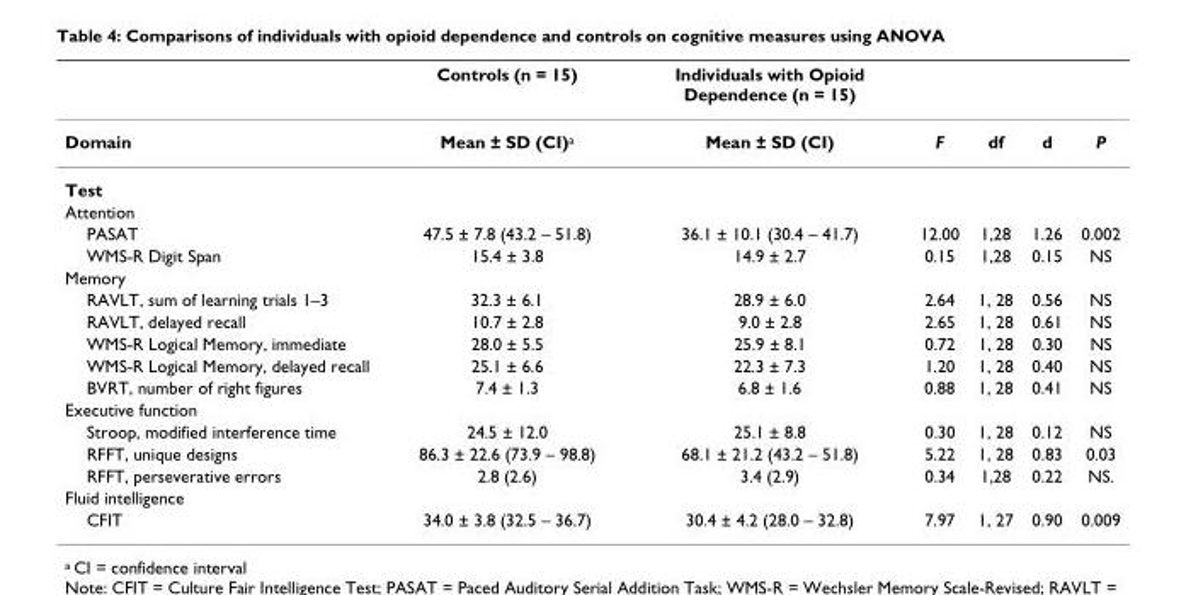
<table><thead><tr><td></td><td>Controls (n = 15)</td><td>Individuals with Opioid Dependence (n = 15)</td><td></td><td></td><td></td><td></td></tr></thead><tbody><tr><td>Domain</td><td>Mean ± SD (CI)<sup>a</sup></td><td>Mean ± SD (CI)</td><td>F</td><td>df</td><td>d</td><td>P</td></tr><tr><td colspan="7">Test</td></tr><tr><td colspan="7">Attention</td></tr><tr><td>PASAT</td><td>47.5 ± 7.8 (43.2 – 51.8)</td><td>36.1 ± 10.1 (30.4 – 41.7)</td><td>12.00</td><td>1,28</td><td>1.26</td><td>0.002</td></tr><tr><td>WMS-R Digit Span</td><td>15.4 ± 3.8</td><td>14.9 ± 2.7</td><td>0.15</td><td>1,28</td><td>0.15</td><td>NS</td></tr><tr><td colspan="7">Memory</td></tr><tr><td>RAVLT, sum of learning trials 1–3</td><td>32.3 ± 6.1</td><td>28.9 ± 6.0</td><td>2.64</td><td>1, 28</td><td>0.56</td><td>NS</td></tr><tr><td>RAVLT, delayed recall</td><td>10.7 ± 2.8</td><td>9.0 ± 2.8</td><td>2.65</td><td>1, 28</td><td>0.61</td><td>NS</td></tr><tr><td>WMS-R Logical Memory, immediate</td><td>28.0 ± 5.5</td><td>25.9 ± 8.1</td><td>0.72</td><td>1, 28</td><td>0.30</td><td>NS</td></tr><tr><td>WMS-R Logical Memory, delayed recall</td><td>25.1 ± 6.6</td><td>22.3 ± 7.3</td><td>1.20</td><td>1, 28</td><td>0.40</td><td>NS</td></tr><tr><td>BVRT, number of right figures</td><td>7.4 ± 1.3</td><td>6.8 ± 1.6</td><td>0.88</td><td>1, 28</td><td>0.41</td><td>NS</td></tr><tr><td colspan="7">Executive function</td></tr><tr><td>Stroop, modified interference time</td><td>24.5 ± 12.0</td><td>25.1 ± 8.8</td><td>0.30</td><td>1, 28</td><td>0.12</td><td>NS</td></tr><tr><td>RFFT, unique designs</td><td>86.3 ± 22.6 (73.9 – 98.8)</td><td>68.1 ± 21.2 (43.2 – 51.8)</td><td>5.22</td><td>1, 28</td><td>0.83</td><td>0.03</td></tr><tr><td>RFFT, perseverative errors</td><td>2.8 (2.6)</td><td>3.4 (2.9)</td><td>0.34</td><td>1,28</td><td>0.22</td><td>NS.</td></tr><tr><td colspan="7">Fluid intelligence</td></tr><tr><td>CFIT</td><td>34.0 ± 3.8 (32.5 – 36.7)</td><td>30.4 ± 4.2 (28.0 – 32.8)</td><td>7.97</td><td>1, 27</td><td>0.90</td><td>0.009</td></tr></tbody></table>